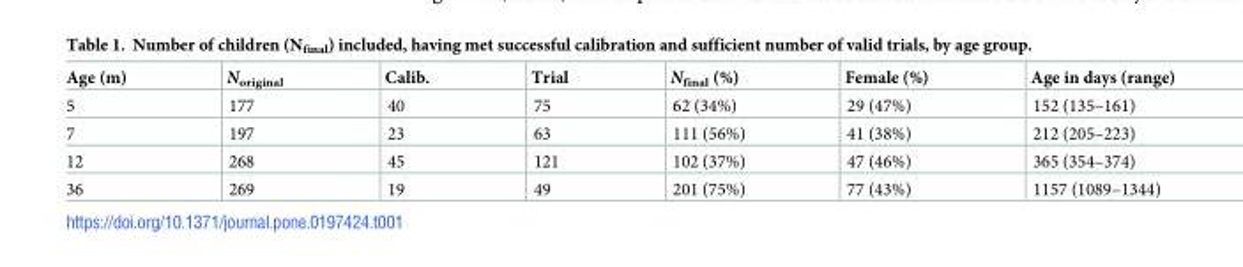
<table><thead><tr><td>Age (m)</td><td>N<sub>original</sub></td><td>Calib.</td><td>Trial</td><td>N<sub>final</sub> (%)</td><td>Female (%)</td><td>Age in days (range)</td></tr></thead><tbody><tr><td>5</td><td>177</td><td>40</td><td>75</td><td>62 (34%)</td><td>29 (47%)</td><td>152 (135–161)</td></tr><tr><td>7</td><td>197</td><td>23</td><td>63</td><td>111 (56%)</td><td>41 (38%)</td><td>212 (205–223)</td></tr><tr><td>12</td><td>268</td><td>45</td><td>121</td><td>102 (37%)</td><td>47 (46%)</td><td>365 (354–374)</td></tr><tr><td>36</td><td>269</td><td>19</td><td>49</td><td>201 (75%)</td><td>77 (43%)</td><td>1157 (1089–1344)</td></tr></tbody></table>